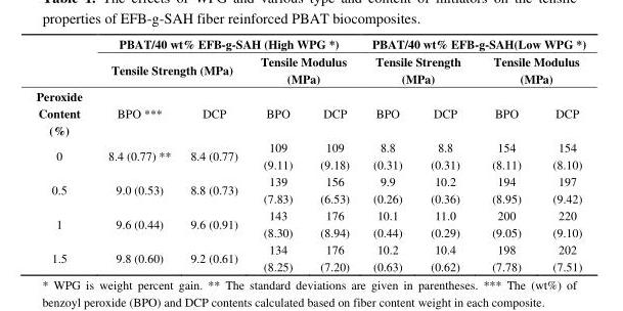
<table><thead><tr><td rowspan="3">Peroxide Content (%)</td><td colspan="4">PBAT/40 wt% EFB-g-SAH (High WPG *)</td><td colspan="4">PBAT/40 wt% EFB-g-SAH(Low WPG *)</td></tr><tr><td colspan="2">Tensile Strength (MPa)</td><td colspan="2">Tensile Modulus (MPa)</td><td colspan="2">Tensile Strength (MPa)</td><td colspan="2">Tensile Modulus (MPa)</td></tr><tr><td>BPO ***</td><td>DCP</td><td>BPO</td><td>DCP</td><td>BPO</td><td>DCP</td><td>BPO</td><td>DCP</td></tr></thead><tbody><tr><td>0</td><td>8.4 (0.77) **</td><td>8.4 (0.77)</td><td>109 (9.11)</td><td>109 (9.18)</td><td>8.8 (0.31)</td><td>8.8 (0.31)</td><td>154 (8.11)</td><td>154 (8.10)</td></tr><tr><td>0.5</td><td>9.0 (0.53)</td><td>8.8 (0.73)</td><td>139 (7.83)</td><td>156 (6.53)</td><td>9.9 (0.26)</td><td>10.2 (0.36)</td><td>194 (8.95)</td><td>197 (9.42)</td></tr><tr><td>1</td><td>9.6 (0.44)</td><td>9.6 (0.91)</td><td>143 (8.30)</td><td>176 (8.94)</td><td>10.1 (0.44)</td><td>11.0 (0.29)</td><td>200 (9.05)</td><td>220 (9.10)</td></tr><tr><td>1.5</td><td>9.8 (0.60)</td><td>9.2 (0.61)</td><td>134 (8.25)</td><td>176 (7.20)</td><td>10.2 (0.63)</td><td>10.4 (0.62)</td><td>198 (7.78)</td><td>202 (7.51)</td></tr></tbody></table>